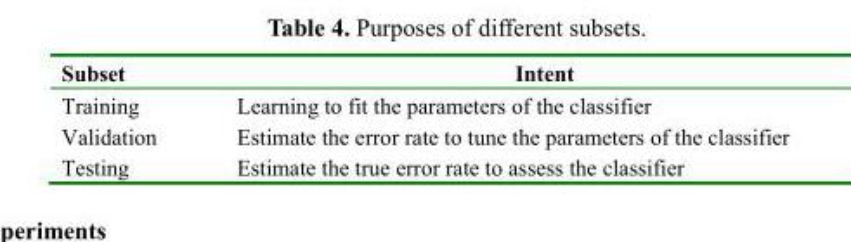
<table><thead><tr><td>Subset</td><td>Intent</td></tr></thead><tbody><tr><td>Training</td><td>Learning to fit the parameters of the classifier</td></tr><tr><td>Validation</td><td>Estimate the error rate to tune the parameters of the classifier</td></tr><tr><td>Testing</td><td>Estimate the true error rate to assess the classifier</td></tr></tbody></table>